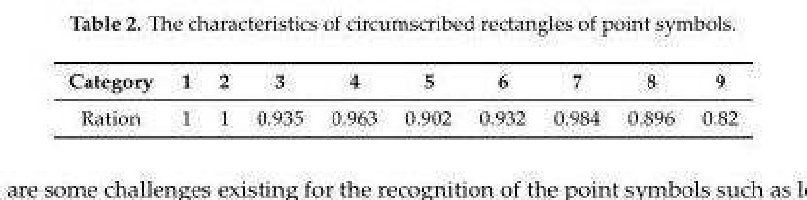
<table><thead><tr><td>Category</td><td>1</td><td>2</td><td>3</td><td>4</td><td>5</td><td>6</td><td>7</td><td>8</td><td>9</td></tr></thead><tbody><tr><td>Ration</td><td>1</td><td>1</td><td>0.935</td><td>0.963</td><td>0.902</td><td>0.932</td><td>0.984</td><td>0.896</td><td>0.82</td></tr></tbody></table>